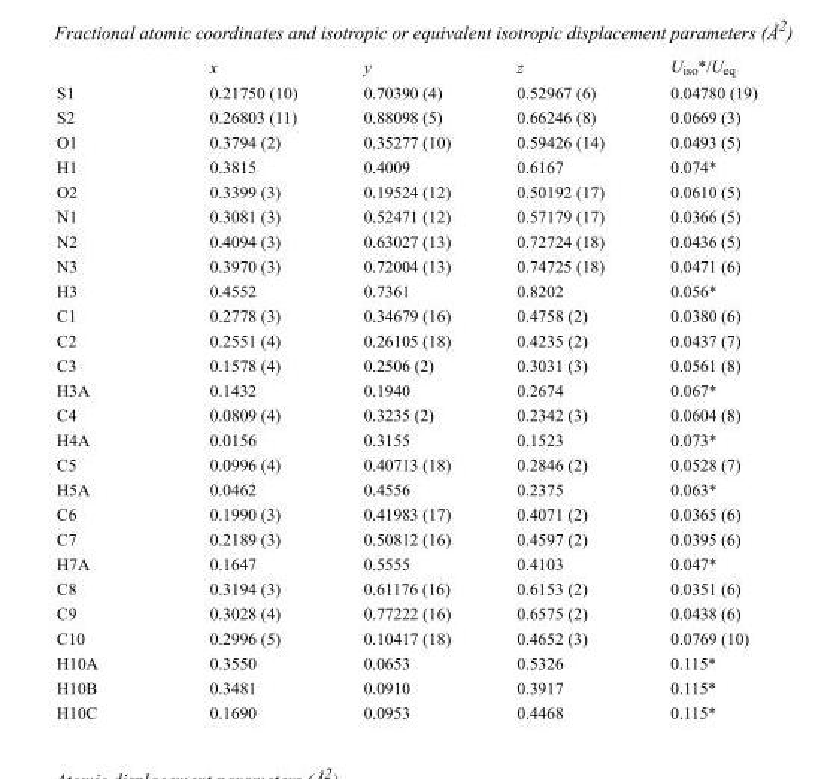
<table><thead><tr><td></td><td>x</td><td>y</td><td>z</td><td>U<sub>iso</sub>*/U<sub>eq</sub></td></tr></thead><tbody><tr><td>S1</td><td>0.21750 (10)</td><td>0.70390 (4)</td><td>0.52967 (6)</td><td>0.04780 (19)</td></tr><tr><td>S2</td><td>0.26803 (11)</td><td>0.88098 (5)</td><td>0.66246 (8)</td><td>0.0669 (3)</td></tr><tr><td>O1</td><td>0.3794 (2)</td><td>0.35277 (10)</td><td>0.59426 (14)</td><td>0.0493 (5)</td></tr><tr><td>H1</td><td>0.3815</td><td>0.4009</td><td>0.6167</td><td>0.074*</td></tr><tr><td>O2</td><td>0.3399 (3)</td><td>0.19524 (12)</td><td>0.50192 (17)</td><td>0.0610 (5)</td></tr><tr><td>N1</td><td>0.3081 (3)</td><td>0.52471 (12)</td><td>0.57179 (17)</td><td>0.0366 (5)</td></tr><tr><td>N2</td><td>0.4094 (3)</td><td>0.63027 (13)</td><td>0.72724 (18)</td><td>0.0436 (5)</td></tr><tr><td>N3</td><td>0.3970 (3)</td><td>0.72004 (13)</td><td>0.74725 (18)</td><td>0.0471 (6)</td></tr><tr><td>H3</td><td>0.4552</td><td>0.7361</td><td>0.8202</td><td>0.056*</td></tr><tr><td>C1</td><td>0.2778 (3)</td><td>0.34679 (16)</td><td>0.4758 (2)</td><td>0.0380 (6)</td></tr><tr><td>C2</td><td>0.2551 (4)</td><td>0.26105 (18)</td><td>0.4235 (2)</td><td>0.0437 (7)</td></tr><tr><td>C3</td><td>0.1578 (4)</td><td>0.2506 (2)</td><td>0.3031 (3)</td><td>0.0561 (8)</td></tr><tr><td>H3A</td><td>0.1432</td><td>0.1940</td><td>0.2674</td><td>0.067*</td></tr><tr><td>C4</td><td>0.0809 (4)</td><td>0.3235 (2)</td><td>0.2342 (3)</td><td>0.0604 (8)</td></tr><tr><td>H4A</td><td>0.0156</td><td>0.3155</td><td>0.1523</td><td>0.073*</td></tr><tr><td>C5</td><td>0.0996 (4)</td><td>0.40713 (18)</td><td>0.2846 (2)</td><td>0.0528 (7)</td></tr><tr><td>H5A</td><td>0.0462</td><td>0.4556</td><td>0.2375</td><td>0.063*</td></tr><tr><td>C6</td><td>0.1990 (3)</td><td>0.41983 (17)</td><td>0.4071 (2)</td><td>0.0365 (6)</td></tr><tr><td>C7</td><td>0.2189 (3)</td><td>0.50812 (16)</td><td>0.4597 (2)</td><td>0.0395 (6)</td></tr><tr><td>H7A</td><td>0.1647</td><td>0.5555</td><td>0.4103</td><td>0.047*</td></tr><tr><td>C8</td><td>0.3194 (3)</td><td>0.61176 (16)</td><td>0.6153 (2)</td><td>0.0351 (6)</td></tr><tr><td>C9</td><td>0.3028 (4)</td><td>0.77222 (16)</td><td>0.6575 (2)</td><td>0.0438 (6)</td></tr><tr><td>C10</td><td>0.2996 (5)</td><td>0.10417 (18)</td><td>0.4652 (3)</td><td>0.0769 (10)</td></tr><tr><td>H10A</td><td>0.3550</td><td>0.0653</td><td>0.5326</td><td>0.115*</td></tr><tr><td>H10B</td><td>0.3481</td><td>0.0910</td><td>0.3917</td><td>0.115*</td></tr><tr><td>H10C</td><td>0.1690</td><td>0.0953</td><td>0.4468</td><td>0.115*</td></tr></tbody></table>